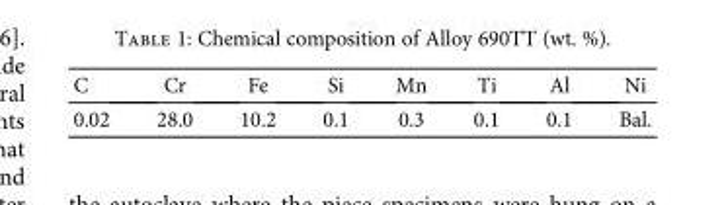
<table><thead><tr><td>C</td><td>Cr</td><td>Fe</td><td>Si</td><td>Mn</td><td>Ti</td><td>Al</td><td>Ni</td></tr></thead><tbody><tr><td>0.02</td><td>28.0</td><td>10.2</td><td>0.1</td><td>0.3</td><td>0.1</td><td>0.1</td><td>Bal.</td></tr></tbody></table>